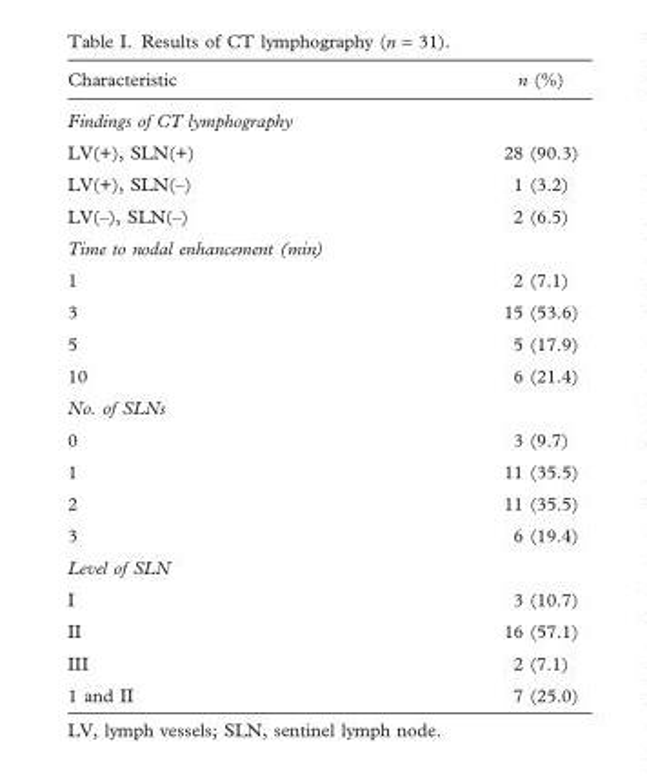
<table><thead><tr><td>Characteristic</td><td>n (%)</td></tr></thead><tbody><tr><td colspan="2">Findings of CT lymphography</td></tr><tr><td>LV(+), SLN(+)</td><td>28 (90.3)</td></tr><tr><td>LV(+), SLN(–)</td><td>1 (3.2)</td></tr><tr><td>LV(–), SLN(–)</td><td>2 (6.5)</td></tr><tr><td colspan="2">Time to nodal enhancement (min)</td></tr><tr><td>1</td><td>2 (7.1)</td></tr><tr><td>3</td><td>15 (53.6)</td></tr><tr><td>5</td><td>5 (17.9)</td></tr><tr><td>10</td><td>6 (21.4)</td></tr><tr><td colspan="2">No. of SLNs</td></tr><tr><td>0</td><td>3 (9.7)</td></tr><tr><td>1</td><td>11 (35.5)</td></tr><tr><td>2</td><td>11 (35.5)</td></tr><tr><td>3</td><td>6 (19.4)</td></tr><tr><td colspan="2">Level of SLN</td></tr><tr><td>I</td><td>3 (10.7)</td></tr><tr><td>II</td><td>16 (57.1)</td></tr><tr><td>III</td><td>2 (7.1)</td></tr><tr><td>1 and II</td><td>7 (25.0)</td></tr></tbody></table>